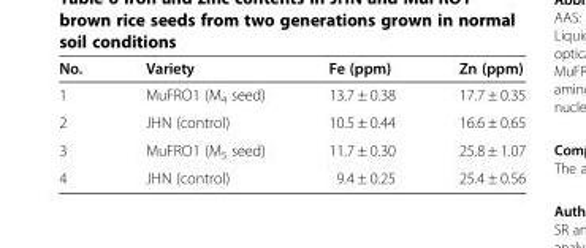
<table><thead><tr><td>No.</td><td>Variety</td><td>Fe (ppm)</td><td>Zn (ppm)</td></tr></thead><tbody><tr><td>1</td><td>MuFRO1 (M<sub>4</sub> seed)</td><td>13.7 ± 0.38</td><td>17.7 ± 0.35</td></tr><tr><td>2</td><td>JHN (control)</td><td>10.5 ± 0.44</td><td>16.6 ± 0.65</td></tr><tr><td>3</td><td>MuFRO1 (M<sub>5</sub> seed)</td><td>11.7 ± 0.30</td><td>25.8 ± 1.07</td></tr><tr><td>4</td><td>JHN (control)</td><td>9.4 ± 0.25</td><td>25.4 ± 0.56</td></tr></tbody></table>